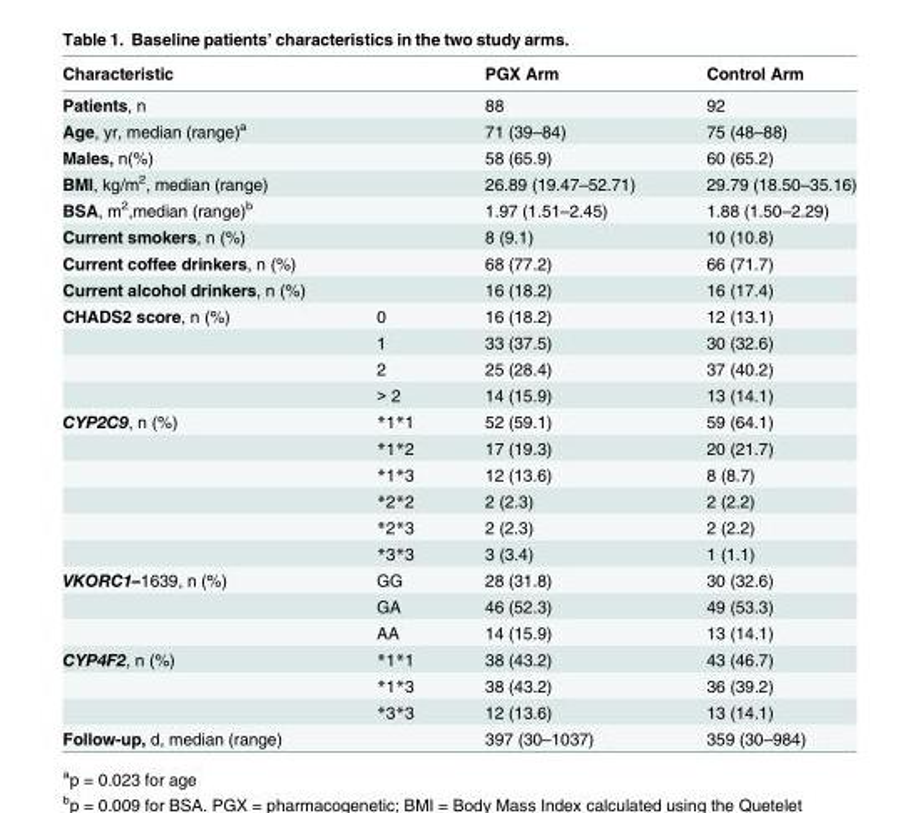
<table><thead><tr><td>Characteristic</td><td></td><td>PGX Arm</td><td>Control Arm</td></tr></thead><tbody><tr><td>Patients, n</td><td></td><td>88</td><td>92</td></tr><tr><td>Age, yr, median (range)<sup>a</sup></td><td></td><td>71 (39–84)</td><td>75 (48–88)</td></tr><tr><td>Males, n(%)</td><td></td><td>58 (65.9)</td><td>60 (65.2)</td></tr><tr><td>BMI, kg/m<sup>2</sup>, median (range)</td><td></td><td>26.89 (19.47–52.71)</td><td>29.79 (18.50–35.16)</td></tr><tr><td>BSA, m<sup>2</sup>,median (range)<sup>b</sup></td><td></td><td>1.97 (1.51–2.45)</td><td>1.88 (1.50–2.29)</td></tr><tr><td>Current smokers, n (%)</td><td></td><td>8 (9.1)</td><td>10 (10.8)</td></tr><tr><td>Current coffee drinkers, n (%)</td><td></td><td>68 (77.2)</td><td>66 (71.7)</td></tr><tr><td>Current alcohol drinkers, n (%)</td><td></td><td>16 (18.2)</td><td>16 (17.4)</td></tr><tr><td rowspan="4">CHADS2 score, n (%)</td><td>0</td><td>16 (18.2)</td><td>12 (13.1)</td></tr><tr><td>1</td><td>33 (37.5)</td><td>30 (32.6)</td></tr><tr><td>2</td><td>25 (28.4)</td><td>37 (40.2)</td></tr><tr><td>&gt; 2</td><td>14 (15.9)</td><td>13 (14.1)</td></tr><tr><td rowspan="6">CYP2C9, n (%)</td><td>*1*1</td><td>52 (59.1)</td><td>59 (64.1)</td></tr><tr><td>*1*2</td><td>17 (19.3)</td><td>20 (21.7)</td></tr><tr><td>*1*3</td><td>12 (13.6)</td><td>8 (8.7)</td></tr><tr><td>*2*2</td><td>2 (2.3)</td><td>2 (2.2)</td></tr><tr><td>*2*3</td><td>2 (2.3)</td><td>2 (2.2)</td></tr><tr><td>*3*3</td><td>3 (3.4)</td><td>1 (1.1)</td></tr><tr><td rowspan="3">VKORC1–1639, n (%)</td><td>GG</td><td>28 (31.8)</td><td>30 (32.6)</td></tr><tr><td>GA</td><td>46 (52.3)</td><td>49 (53.3)</td></tr><tr><td>AA</td><td>14 (15.9)</td><td>13 (14.1)</td></tr><tr><td rowspan="3">CYP4F2, n (%)</td><td>*1*1</td><td>38 (43.2)</td><td>43 (46.7)</td></tr><tr><td>*1*3</td><td>38 (43.2)</td><td>36 (39.2)</td></tr><tr><td>*3*3</td><td>12 (13.6)</td><td>13 (14.1)</td></tr><tr><td>Follow-up, d, median (range)</td><td></td><td>397 (30–1037)</td><td>359 (30–984)</td></tr></tbody></table>